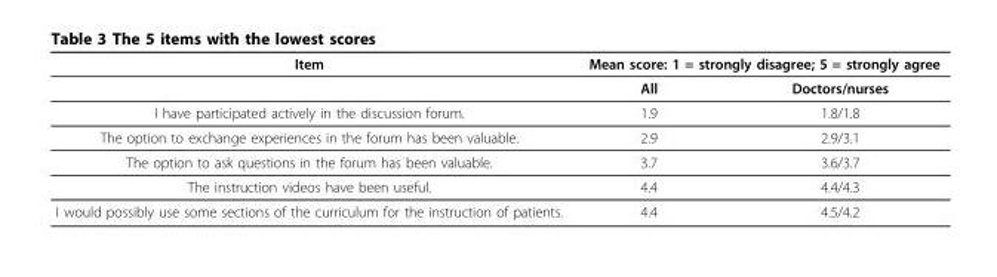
<table><thead><tr><td rowspan="2">Item</td><td colspan="2">Mean score: 1 = strongly disagree; 5 = strongly agree</td></tr><tr><td>All</td><td>Doctors/nurses</td></tr></thead><tbody><tr><td>I have participated actively in the discussion forum.</td><td>1.9</td><td>1.8/1.8</td></tr><tr><td>The option to exchange experiences in the forum has been valuable.</td><td>2.9</td><td>2.9/3.1</td></tr><tr><td>The option to ask questions in the forum has been valuable.</td><td>3.7</td><td>3.6/3.7</td></tr><tr><td>The instruction videos have been useful.</td><td>4.4</td><td>4.4/4.3</td></tr><tr><td>I would possibly use some sections of the curriculum for the instruction of patients.</td><td>4.4</td><td>4.5/4.2</td></tr></tbody></table>